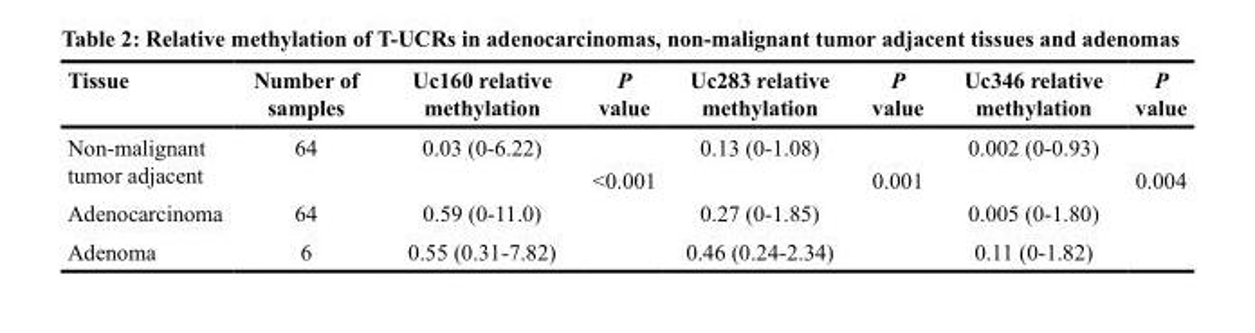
<table><thead><tr><td>Tissue</td><td>Number of samples</td><td>Uc160 relative methylation</td><td>P value</td><td>Uc283 relative methylation</td><td>P value</td><td>Uc346 relative methylation</td><td>P value</td></tr></thead><tbody><tr><td>Non-malignant tumor adjacent</td><td>64</td><td>0.03 (0-6.22)</td><td rowspan="2">&lt;0.001</td><td>0.13 (0-1.08)</td><td rowspan="2">0.001</td><td>0.002 (0-0.93)</td><td rowspan="2">0.004</td></tr><tr><td>Adenocarcinoma</td><td>64</td><td>0.59 (0-11.0)</td><td>0.27 (0-1.85)</td><td>0.005 (0-1.80)</td></tr><tr><td>Adenoma</td><td>6</td><td>0.55 (0.31-7.82)</td><td></td><td>0.46 (0.24-2.34)</td><td></td><td>0.11 (0-1.82)</td><td></td></tr></tbody></table>